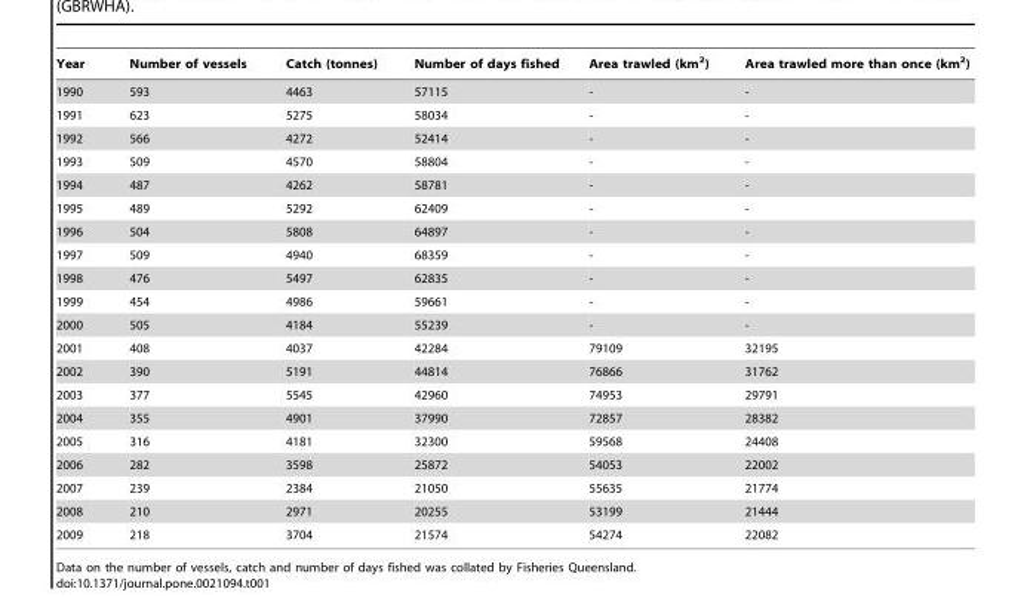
<table><thead><tr><td>Year</td><td>Number of vessels</td><td>Catch (tonnes)</td><td>Number of days fished</td><td>Area trawled (km<sup>2</sup>)</td><td>Area trawled more than once (km<sup>2</sup>)</td></tr></thead><tbody><tr><td>1990</td><td>593</td><td>4463</td><td>57115</td><td>-</td><td>-</td></tr><tr><td>1991</td><td>623</td><td>5275</td><td>58034</td><td>-</td><td>-</td></tr><tr><td>1992</td><td>566</td><td>4272</td><td>52414</td><td>-</td><td>-</td></tr><tr><td>1993</td><td>509</td><td>4570</td><td>58804</td><td>-</td><td>-</td></tr><tr><td>1994</td><td>487</td><td>4262</td><td>58781</td><td>-</td><td>-</td></tr><tr><td>1995</td><td>489</td><td>5292</td><td>62409</td><td>-</td><td>-</td></tr><tr><td>1996</td><td>504</td><td>5808</td><td>64897</td><td>-</td><td>-</td></tr><tr><td>1997</td><td>509</td><td>4940</td><td>68359</td><td>-</td><td>-</td></tr><tr><td>1998</td><td>476</td><td>5497</td><td>62835</td><td>-</td><td>-</td></tr><tr><td>1999</td><td>454</td><td>4986</td><td>59661</td><td>-</td><td>-</td></tr><tr><td>2000</td><td>505</td><td>4184</td><td>55239</td><td>-</td><td>-</td></tr><tr><td>2001</td><td>408</td><td>4037</td><td>42284</td><td>79109</td><td>32195</td></tr><tr><td>2002</td><td>390</td><td>5191</td><td>44814</td><td>76866</td><td>31762</td></tr><tr><td>2003</td><td>377</td><td>5545</td><td>42960</td><td>74953</td><td>29791</td></tr><tr><td>2004</td><td>355</td><td>4901</td><td>37990</td><td>72857</td><td>28382</td></tr><tr><td>2005</td><td>316</td><td>4181</td><td>32300</td><td>59568</td><td>24408</td></tr><tr><td>2006</td><td>282</td><td>3598</td><td>25872</td><td>54053</td><td>22002</td></tr><tr><td>2007</td><td>239</td><td>2384</td><td>21050</td><td>55635</td><td>21774</td></tr><tr><td>2008</td><td>210</td><td>2971</td><td>20255</td><td>53199</td><td>21444</td></tr><tr><td>2009</td><td>218</td><td>3704</td><td>21574</td><td>54274</td><td>22082</td></tr></tbody></table>